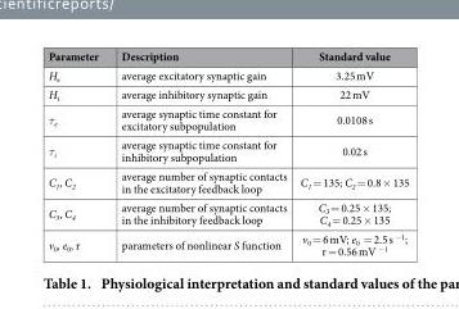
<table><thead><tr><td>Parameter</td><td>Description</td><td>Standard value</td></tr></thead><tbody><tr><td>H<sub>e</sub></td><td>average excitatory synaptic gain</td><td>3.25 mV</td></tr><tr><td>H<sub>i</sub></td><td>average inhibitory synaptic gain</td><td>22 mV</td></tr><tr><td>τ<sub>e</sub></td><td>average synaptic time constant for excitatory subpopulation</td><td>0.0108 s</td></tr><tr><td>τ<sub>i</sub></td><td>average synaptic time constant for inhibitory subpopulation</td><td>0.02 s</td></tr><tr><td>C<sub>1</sub>, C<sub>2</sub></td><td>average number of synaptic contacts in the excitatory feedback loop</td><td>C<sub>1</sub> = 135; C<sub>2</sub> = 0.8 × 135</td></tr><tr><td>C<sub>3</sub>, C<sub>4</sub></td><td>average number of synaptic contacts in the inhibitory feedback loop</td><td>C<sub>3</sub> = 0.25 × 135; C<sub>4</sub> = 0.25 × 135</td></tr><tr><td>v<sub>0</sub>, e<sub>0</sub>, r</td><td>parameters of nonlinear S function</td><td>v<sub>0</sub> = 6 mV; e<sub>0</sub> = 2.5 s <sup>−1</sup>; r = 0.56 mV <sup>−1</sup></td></tr></tbody></table>